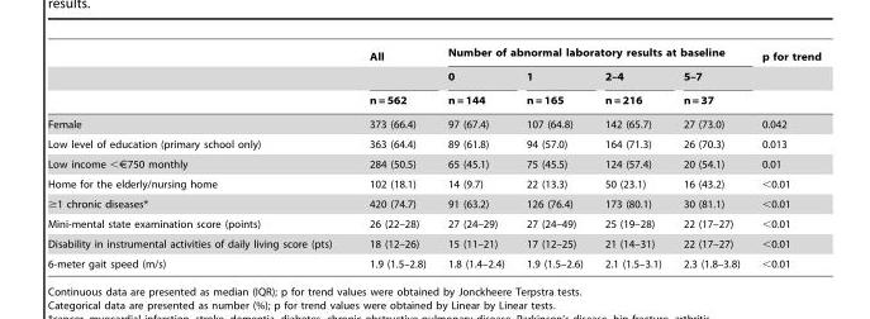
<table><thead><tr><td rowspan="3"></td><td rowspan="3">All n = 562</td><td colspan="4">Number of abnormal laboratory results at baseline</td><td rowspan="3">p for trend</td></tr><tr><td rowspan="2">0 n = 144</td><td rowspan="2">1 n = 165</td><td rowspan="2">2–4 n = 216</td><td rowspan="2">5–7 n = 37</td></tr><tr></tr></thead><tbody><tr><td>Female</td><td>373 (66.4)</td><td>97 (67.4)</td><td>107 (64.8)</td><td>142 (65.7)</td><td>27 (73.0)</td><td>0.042</td></tr><tr><td>Low level of education (primary school only)</td><td>363 (64.4)</td><td>89 (61.8)</td><td>94 (57.0)</td><td>164 (71.3)</td><td>26 (70.3)</td><td>0.013</td></tr><tr><td>Low income &lt;€750 monthly</td><td>284 (50.5)</td><td>65 (45.1)</td><td>75 (45.5)</td><td>124 (57.4)</td><td>20 (54.1)</td><td>0.01</td></tr><tr><td>Home for the elderly/nursing home</td><td>102 (18.1)</td><td>14 (9.7)</td><td>22 (13.3)</td><td>50 (23.1)</td><td>16 (43.2)</td><td>&lt;0.01</td></tr><tr><td>≥1 chronic diseases*</td><td>420 (74.7)</td><td>91 (63.2)</td><td>126 (76.4)</td><td>173 (80.1)</td><td>30 (81.1)</td><td>&lt;0.01</td></tr><tr><td>Mini-mental state examination score (points)</td><td>26 (22–28)</td><td>27 (24–29)</td><td>27 (24–49)</td><td>25 (19–28)</td><td>22 (17–27)</td><td>&lt;0.01</td></tr><tr><td>Disability in instrumental activities of daily living score (pts)</td><td>18 (12–26)</td><td>15 (11–21)</td><td>17 (12–25)</td><td>21 (14–31)</td><td>22 (17–27)</td><td>&lt;0.01</td></tr><tr><td>6-meter gait speed (m/s)</td><td>1.9 (1.5–2.8)</td><td>1.8 (1.4–2.4)</td><td>1.9 (1.5–2.6)</td><td>2.1 (1.5–3.1)</td><td>2.3 (1.8–3.8)</td><td>&lt;0.01</td></tr></tbody></table>